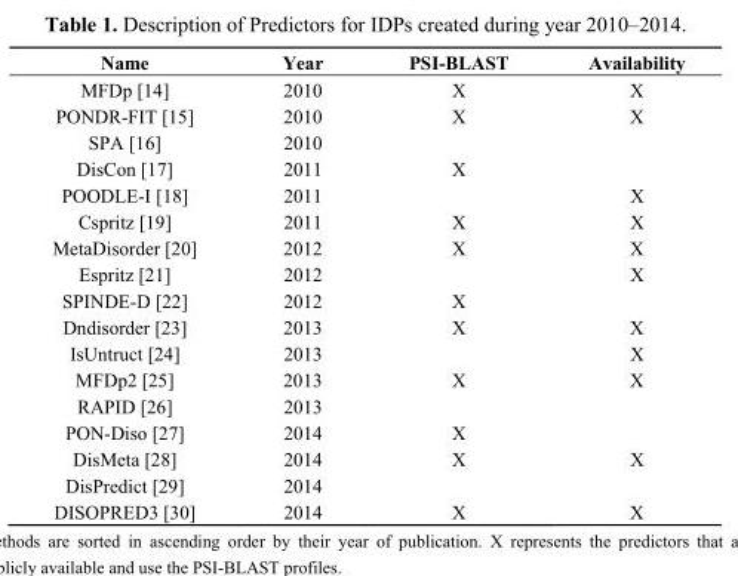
<table><thead><tr><td>Name</td><td>Year</td><td>PSI-BLAST</td><td>Availability</td></tr></thead><tbody><tr><td>MFDp [14]</td><td>2010</td><td>X</td><td>X</td></tr><tr><td>PONDR-FIT [15]</td><td>2010</td><td>X</td><td>X</td></tr><tr><td>SPA [16]</td><td>2010</td><td></td><td></td></tr><tr><td>DisCon [17]</td><td>2011</td><td>X</td><td></td></tr><tr><td>POODLE-I [18]</td><td>2011</td><td></td><td>X</td></tr><tr><td>Cspritz [19]</td><td>2011</td><td>X</td><td>X</td></tr><tr><td>MetaDisorder [20]</td><td>2012</td><td>X</td><td>X</td></tr><tr><td>Espritz [21]</td><td>2012</td><td></td><td>X</td></tr><tr><td>SPINDE-D [22]</td><td>2012</td><td>X</td><td></td></tr><tr><td>Dndisorder [23]</td><td>2013</td><td>X</td><td>X</td></tr><tr><td>IsUntruct [24]</td><td>2013</td><td></td><td>X</td></tr><tr><td>MFDp2 [25]</td><td>2013</td><td>X</td><td>X</td></tr><tr><td>RAPID [26]</td><td>2013</td><td></td><td></td></tr><tr><td>PON-Diso [27]</td><td>2014</td><td>X</td><td></td></tr><tr><td>DisMeta [28]</td><td>2014</td><td>X</td><td>X</td></tr><tr><td>DisPredict [29]</td><td>2014</td><td></td><td></td></tr><tr><td>DISOPRED3 [30]</td><td>2014</td><td>X</td><td>X</td></tr></tbody></table>